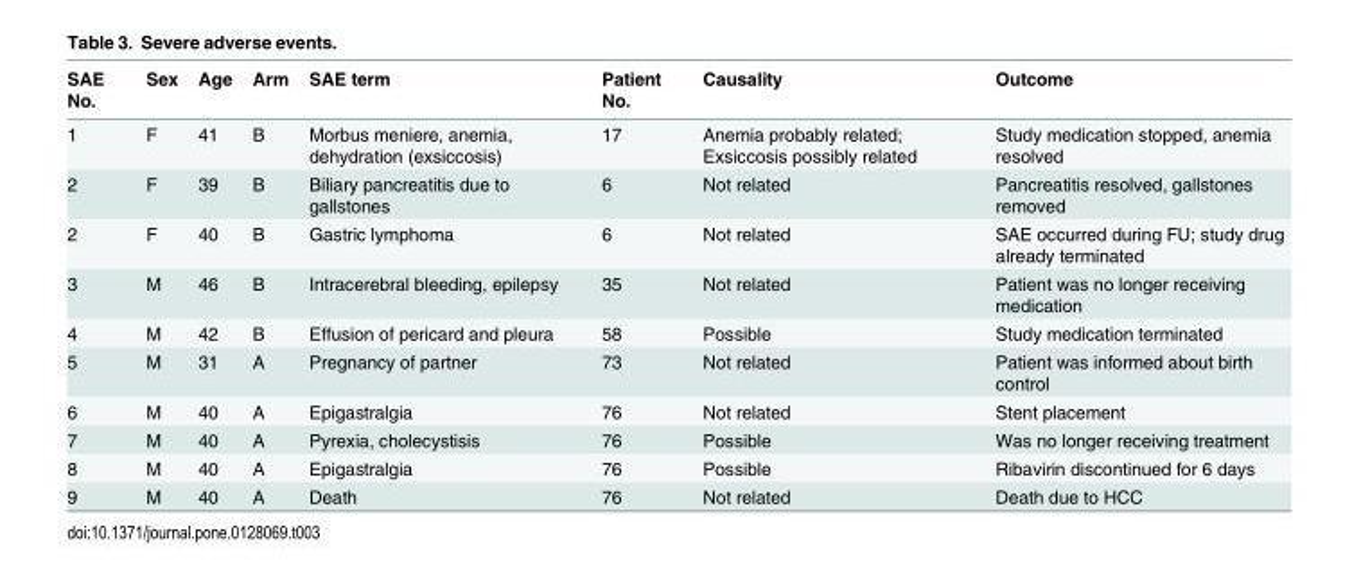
<table><thead><tr><td>SAE No.</td><td>Sex</td><td>Age</td><td>Arm</td><td>SAE term</td><td>Patient No.</td><td>Causality</td><td>Outcome</td></tr></thead><tbody><tr><td>1</td><td>F</td><td>41</td><td>B</td><td>Morbus meniere, anemia, dehydration (exsiccosis)</td><td>17</td><td>Anemia probably related; Exsiccosis possibly related</td><td>Study medication stopped, anemia resolved</td></tr><tr><td>2</td><td>F</td><td>39</td><td>B</td><td>Biliary pancreatitis due to gallstones</td><td>6</td><td>Not related</td><td>Pancreatitis resolved, gallstones removed</td></tr><tr><td>2</td><td>F</td><td>40</td><td>B</td><td>Gastric lymphoma</td><td>6</td><td>Not related</td><td>SAE occurred during FU; study drug already terminated</td></tr><tr><td>3</td><td>M</td><td>46</td><td>B</td><td>Intracerebral bleeding, epilepsy</td><td>35</td><td>Not related</td><td>Patient was no longer receiving medication</td></tr><tr><td>4</td><td>M</td><td>42</td><td>B</td><td>Effusion of pericard and pleura</td><td>58</td><td>Possible</td><td>Study medication terminated</td></tr><tr><td>5</td><td>M</td><td>31</td><td>A</td><td>Pregnancy of partner</td><td>73</td><td>Not related</td><td>Patient was informed about birth control</td></tr><tr><td>6</td><td>M</td><td>40</td><td>A</td><td>Epigastralgia</td><td>76</td><td>Not related</td><td>Stent placement</td></tr><tr><td>7</td><td>M</td><td>40</td><td>A</td><td>Pyrexia, cholecystisis</td><td>76</td><td>Possible</td><td>Was no longer receiving treatment</td></tr><tr><td>8</td><td>M</td><td>40</td><td>A</td><td>Epigastralgia</td><td>76</td><td>Possible</td><td>Ribavirin discontinued for 6 days</td></tr><tr><td>9</td><td>M</td><td>40</td><td>A</td><td>Death</td><td>76</td><td>Not related</td><td>Death due to HCC</td></tr></tbody></table>